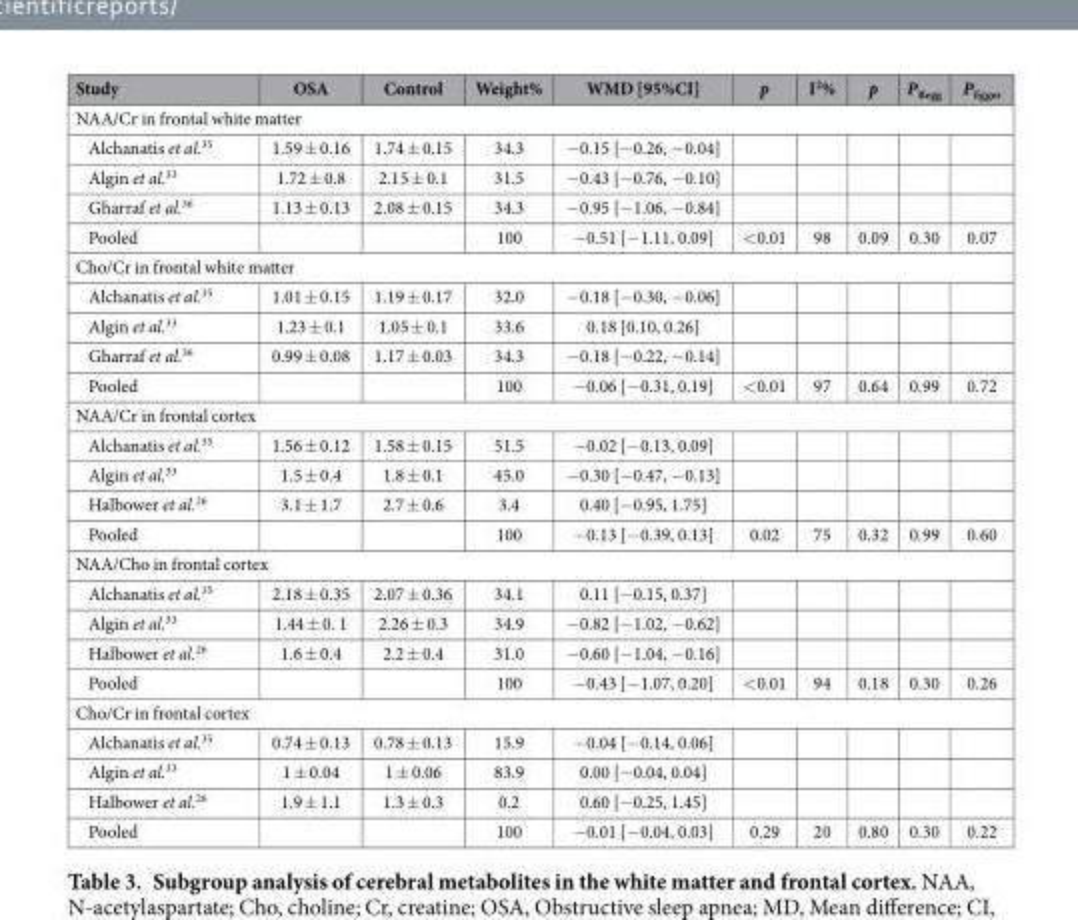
<table><thead><tr><td>Study</td><td>OSA</td><td>Control</td><td>Weight%</td><td>WMD [95%CI]</td><td>p</td><td>I<sup>2</sup>%</td><td>p</td><td>P<sub>Begg</sub></td><td>P<sub>Egger</sub></td></tr></thead><tbody><tr><td colspan="10">NAA/Cr in frontal white matter</td></tr><tr><td>Alchanatis et al.<sup>35</sup></td><td>1.59 ± 0.16</td><td>1.74 ± 0.15</td><td>34.3</td><td>− 0.15 [− 0.26, − 0.04]</td><td></td><td></td><td></td><td></td><td></td></tr><tr><td>Algin et al.<sup>33</sup></td><td>1.72 ± 0.8</td><td>2.15 ± 0.1</td><td>31.5</td><td>− 0.43 [− 0.76, − 0.10]</td><td></td><td></td><td></td><td></td><td></td></tr><tr><td>Gharraf et al.<sup>36</sup></td><td>1.13 ± 0.13</td><td>2.08 ± 0.15</td><td>34.3</td><td>− 0.95 [− 1.06, − 0.84]</td><td></td><td></td><td></td><td></td><td></td></tr><tr><td>Pooled</td><td></td><td></td><td>100</td><td>− 0.51 [− 1.11, 0.09]</td><td>&lt; 0.01</td><td>98</td><td>0.09</td><td>0.30</td><td>0.07</td></tr><tr><td colspan="10">Cho/Cr in frontal white matter</td></tr><tr><td>Alchanatis et al.<sup>35</sup></td><td>1.01 ± 0.15</td><td>1.19 ± 0.17</td><td>32.0</td><td>− 0.18 [− 0.30, − 0.06]</td><td></td><td></td><td></td><td></td><td></td></tr><tr><td>Algin et al.<sup>33</sup></td><td>1.23 ± 0.1</td><td>1.05 ± 0.1</td><td>33.6</td><td>0.18 [0.10, 0.26]</td><td></td><td></td><td></td><td></td><td></td></tr><tr><td>Gharraf et al.<sup>36</sup></td><td>0.99 ± 0.08</td><td>1.17 ± 0.03</td><td>34.3</td><td>− 0.18 [− 0.22, − 0.14]</td><td></td><td></td><td></td><td></td><td></td></tr><tr><td>Pooled</td><td></td><td></td><td>100</td><td>− 0.06 [− 0.31, 0.19]</td><td>&lt; 0.01</td><td>97</td><td>0.64</td><td>0.99</td><td>0.72</td></tr><tr><td colspan="10">NAA/Cr in frontal cortex</td></tr><tr><td>Alchanatis et al.<sup>35</sup></td><td>1.56 ± 0.12</td><td>1.58 ± 0.15</td><td>51.5</td><td>− 0.02 [− 0.13, 0.09]</td><td></td><td></td><td></td><td></td><td></td></tr><tr><td>Algin et al.<sup>33</sup></td><td>1.5 ± 0.4</td><td>1.8 ± 0.1</td><td>45.0</td><td>− 0.30 [− 0.47, − 0.13]</td><td></td><td></td><td></td><td></td><td></td></tr><tr><td>Halbower et al.<sup>26</sup></td><td>3.1 ± 1.7</td><td>2.7 ± 0.6</td><td>3.4</td><td>0.40 [− 0.95, 1.75]</td><td></td><td></td><td></td><td></td><td></td></tr><tr><td>Pooled</td><td></td><td></td><td>100</td><td>− 0.13 [− 0.39, 0.13]</td><td>0.02</td><td>75</td><td>0.32</td><td>0.99</td><td>0.60</td></tr><tr><td colspan="10">NAA/Cho in frontal cortex</td></tr><tr><td>Alchanatis et al.<sup>35</sup></td><td>2.18 ± 0.35</td><td>2.07 ± 0.36</td><td>34.1</td><td>0.11 [− 0.15, 0.37]</td><td></td><td></td><td></td><td></td><td></td></tr><tr><td>Algin et al.<sup>33</sup></td><td>1.44 ± 0. 1</td><td>2.26 ± 0.3</td><td>34.9</td><td>− 0.82 [− 1.02, − 0.62]</td><td></td><td></td><td></td><td></td><td></td></tr><tr><td>Halbower et al.<sup>26</sup></td><td>1.6 ± 0.4</td><td>2.2 ± 0.4</td><td>31.0</td><td>− 0.60 [− 1.04, − 0.16]</td><td></td><td></td><td></td><td></td><td></td></tr><tr><td>Pooled</td><td></td><td></td><td>100</td><td>− 0.43 [− 1.07, 0.20]</td><td>&lt; 0.01</td><td>94</td><td>0.18</td><td>0.30</td><td>0.26</td></tr><tr><td colspan="10">Cho/Cr in frontal cortex</td></tr><tr><td>Alchanatis et al.<sup>35</sup></td><td>0.74 ± 0.13</td><td>0.78 ± 0.13</td><td>15.9</td><td>− 0.04 [− 0.14, 0.06]</td><td></td><td></td><td></td><td></td><td></td></tr><tr><td>Algin et al.<sup>33</sup></td><td>1 ± 0.04</td><td>1 ± 0.06</td><td>83.9</td><td>0.00 [− 0.04, 0.04]</td><td></td><td></td><td></td><td></td><td></td></tr><tr><td>Halbower et al.<sup>26</sup></td><td>1.9 ± 1.1</td><td>1.3 ± 0.3</td><td>0.2</td><td>0.60 [− 0.25, 1.45]</td><td></td><td></td><td></td><td></td><td></td></tr><tr><td>Pooled</td><td></td><td></td><td>100</td><td>− 0.01 [− 0.04, 0.03]</td><td>0.29</td><td>20</td><td>0.80</td><td>0.30</td><td>0.22</td></tr></tbody></table>